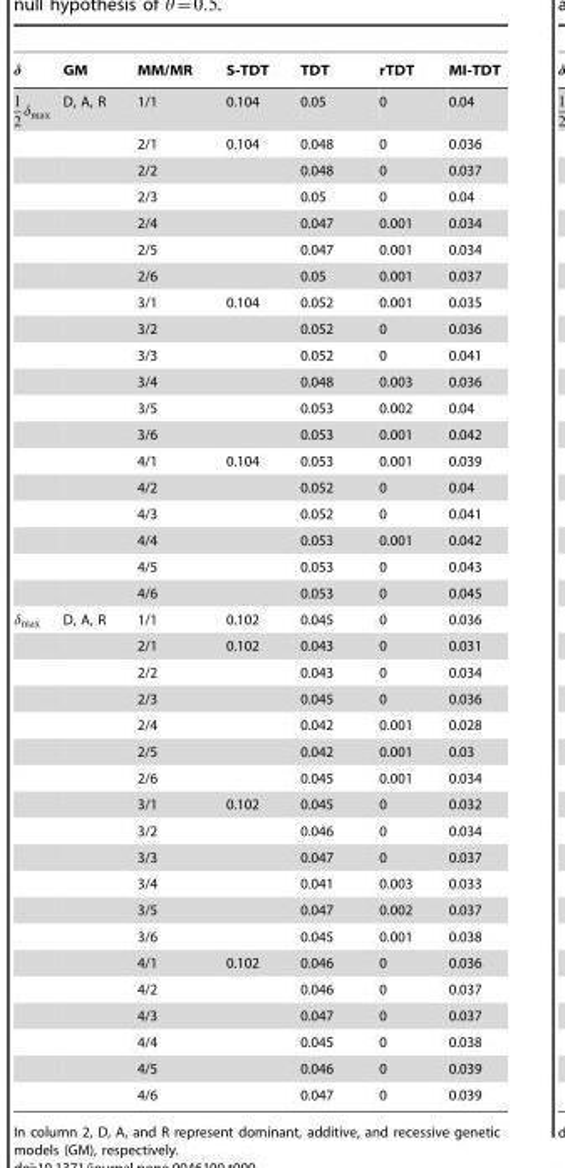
<table><thead><tr><td>GM</td><td>MM/MR</td><td>S-TDT</td><td>TDT</td><td>rTDT</td><td>MI-TDT</td></tr></thead><tbody><tr><td rowspan="19">D, A, R</td><td>1/1</td><td>0.104</td><td>0.05</td><td>0</td><td>0.04</td></tr><tr><td>2/1</td><td>0.104</td><td>0.048</td><td>0</td><td>0.036</td></tr><tr><td>2/2</td><td></td><td>0.048</td><td>0</td><td>0.037</td></tr><tr><td>2/3</td><td></td><td>0.05</td><td>0</td><td>0.04</td></tr><tr><td>2/4</td><td></td><td>0.047</td><td>0.001</td><td>0.034</td></tr><tr><td>2/5</td><td></td><td>0.047</td><td>0.001</td><td>0.034</td></tr><tr><td>2/6</td><td></td><td>0.05</td><td>0.001</td><td>0.037</td></tr><tr><td>3/1</td><td>0.104</td><td>0.052</td><td>0.001</td><td>0.035</td></tr><tr><td>3/2</td><td></td><td>0.052</td><td>0</td><td>0.036</td></tr><tr><td>3/3</td><td></td><td>0.052</td><td>0</td><td>0.041</td></tr><tr><td>3/4</td><td></td><td>0.048</td><td>0.003</td><td>0.036</td></tr><tr><td>3/5</td><td></td><td>0.053</td><td>0.002</td><td>0.04</td></tr><tr><td>3/6</td><td></td><td>0.053</td><td>0.001</td><td>0.042</td></tr><tr><td>4/1</td><td>0.104</td><td>0.053</td><td>0.001</td><td>0.039</td></tr><tr><td>4/2</td><td></td><td>0.052</td><td>0</td><td>0.04</td></tr><tr><td>4/3</td><td></td><td>0.052</td><td>0</td><td>0.041</td></tr><tr><td>4/4</td><td></td><td>0.053</td><td>0.001</td><td>0.042</td></tr><tr><td>4/5</td><td></td><td>0.053</td><td>0</td><td>0.043</td></tr><tr><td>4/6</td><td></td><td>0.053</td><td>0</td><td>0.045</td></tr><tr><td rowspan="19">D, A, R</td><td>1/1</td><td>0.102</td><td>0.045</td><td>0</td><td>0.036</td></tr><tr><td>2/1</td><td>0.102</td><td>0.043</td><td>0</td><td>0.031</td></tr><tr><td>2/2</td><td></td><td>0.043</td><td>0</td><td>0.034</td></tr><tr><td>2/3</td><td></td><td>0.045</td><td>0</td><td>0.036</td></tr><tr><td>2/4</td><td></td><td>0.042</td><td>0.001</td><td>0.028</td></tr><tr><td>2/5</td><td></td><td>0.042</td><td>0.001</td><td>0.03</td></tr><tr><td>2/6</td><td></td><td>0.045</td><td>0.001</td><td>0.034</td></tr><tr><td>3/1</td><td>0.102</td><td>0.045</td><td>0</td><td>0.032</td></tr><tr><td>3/2</td><td></td><td>0.046</td><td>0</td><td>0.034</td></tr><tr><td>3/3</td><td></td><td>0.047</td><td>0</td><td>0.037</td></tr><tr><td>3/4</td><td></td><td>0.041</td><td>0.003</td><td>0.033</td></tr><tr><td>3/5</td><td></td><td>0.047</td><td>0.002</td><td>0.037</td></tr><tr><td>3/6</td><td></td><td>0.045</td><td>0.001</td><td>0.038</td></tr><tr><td>4/1</td><td>0.102</td><td>0.046</td><td>0</td><td>0.036</td></tr><tr><td>4/2</td><td></td><td>0.046</td><td>0</td><td>0.037</td></tr><tr><td>4/3</td><td></td><td>0.047</td><td>0</td><td>0.037</td></tr><tr><td>4/4</td><td></td><td>0.045</td><td>0</td><td>0.038</td></tr><tr><td>4/5</td><td></td><td>0.046</td><td>0</td><td>0.039</td></tr><tr><td>4/6</td><td></td><td>0.047</td><td>0</td><td>0.039</td></tr></tbody></table>